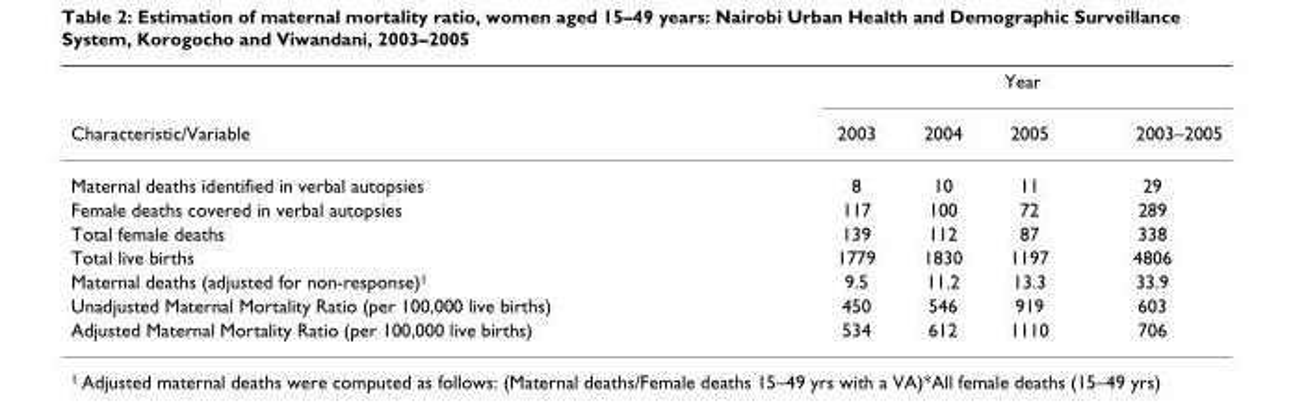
<table><thead><tr><td rowspan="2">Characteristic/Variable</td><td colspan="4">Year</td></tr><tr><td>2003</td><td>2004</td><td>2005</td><td>2003–2005</td></tr></thead><tbody><tr><td>Maternal deaths identified in verbal autopsies</td><td>8</td><td>10</td><td>11</td><td>29</td></tr><tr><td>Female deaths covered in verbal autopsies</td><td>117</td><td>100</td><td>72</td><td>289</td></tr><tr><td>Total female deaths</td><td>139</td><td>112</td><td>87</td><td>338</td></tr><tr><td>Total live births</td><td>1779</td><td>1830</td><td>1197</td><td>4806</td></tr><tr><td>Maternal deaths (adjusted for non-response)<sup>1</sup></td><td>9.5</td><td>11.2</td><td>13.3</td><td>33.9</td></tr><tr><td>Unadjusted Maternal Mortality Ratio (per 100,000 live births)</td><td>450</td><td>546</td><td>919</td><td>603</td></tr><tr><td>Adjusted Maternal Mortality Ratio (per 100,000 live births)</td><td>534</td><td>612</td><td>1110</td><td>706</td></tr></tbody></table>